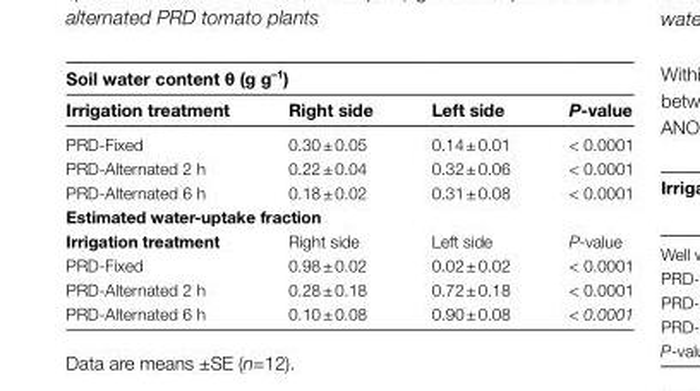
<table><thead><tr><td colspan="4">Soil water content θ (g g<sup>–1</sup>)</td></tr><tr><td>Irrigation treatment</td><td>Right side</td><td>Left side</td><td>P-value</td></tr></thead><tbody><tr><td>PRD-Fixed</td><td>0.30 ± 0.05</td><td>0.14 ± 0.01</td><td>&lt; 0.0001</td></tr><tr><td>PRD-Alternated 2 h</td><td>0.22 ± 0.04</td><td>0.32 ± 0.06</td><td>&lt; 0.0001</td></tr><tr><td>PRD-Alternated 6 h</td><td>0.18 ± 0.02</td><td>0.31 ± 0.08</td><td>&lt; 0.0001</td></tr><tr><td colspan="4">Estimated water-uptake fraction</td></tr><tr><td>Irrigation treatment</td><td>Right side</td><td>Left side</td><td>P-value</td></tr><tr><td>PRD-Fixed</td><td>0.98 ± 0.02</td><td>0.02 ± 0.02</td><td>&lt; 0.0001</td></tr><tr><td>PRD-Alternated 2 h</td><td>0.28 ± 0.18</td><td>0.72 ± 0.18</td><td>&lt; 0.0001</td></tr><tr><td>PRD-Alternated 6 h</td><td>0.10 ± 0.08</td><td>0.90 ± 0.08</td><td>&lt; 0.0001</td></tr></tbody></table>